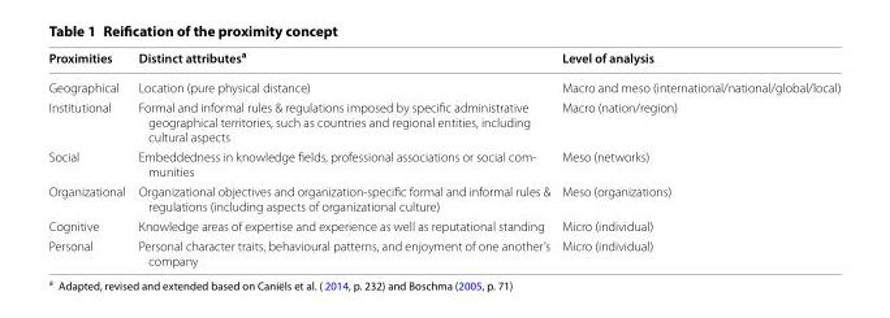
<table><thead><tr><td>Proximities</td><td>Distinct attributes<sup>a</sup></td><td>Level of analysis</td></tr></thead><tbody><tr><td>Geographical</td><td>Location (pure physical distance)</td><td>Macro and meso (international/national/global/local)</td></tr><tr><td>Institutional</td><td>Formal and informal rules &amp; regulations imposed by specific administrative geographical territories, such as countries and regional entities, including cultural aspects</td><td>Macro (nation/region)</td></tr><tr><td>Social</td><td>Embeddedness in knowledge fields, professional associations or social com- munities</td><td>Meso (networks)</td></tr><tr><td>Organizational</td><td>Organizational objectives and organization-specific formal and informal rules &amp; regulations (including aspects of organizational culture)</td><td>Meso (organizations)</td></tr><tr><td>Cognitive</td><td>Knowledge areas of expertise and experience as well as reputational standing</td><td>Micro (individual)</td></tr><tr><td>Personal</td><td>Personal character traits, behavioural patterns, and enjoyment of one another’s company</td><td>Micro (individual)</td></tr></tbody></table>